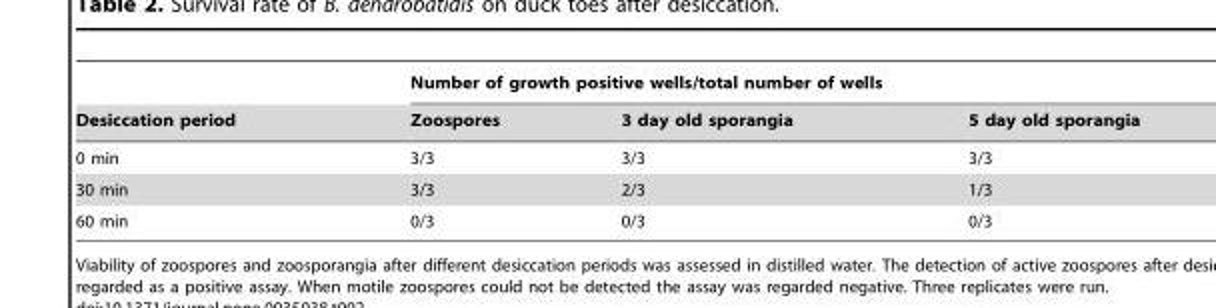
<table><thead><tr><td rowspan="2">Desiccation period</td><td colspan="3">Number of growth positive wells/total number of wells</td></tr><tr><td>Zoospores</td><td>3 day old sporangia</td><td>5 day old sporangia</td></tr></thead><tbody><tr><td>0 min</td><td>3/3</td><td>3/3</td><td>3/3</td></tr><tr><td>30 min</td><td>3/3</td><td>2/3</td><td>1/3</td></tr><tr><td>60 min</td><td>0/3</td><td>0/3</td><td>0/3</td></tr></tbody></table>